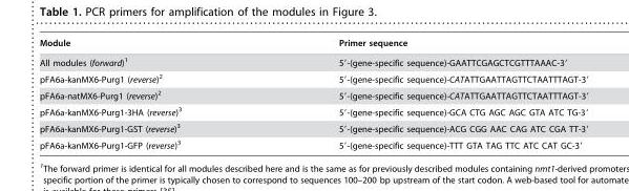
<table><thead><tr><td>Module</td><td>Primer sequence</td></tr></thead><tbody><tr><td>All modules (forward)<sup>1</sup></td><td>5′-(gene-specific sequence)-GAATTCGAGCTCGTTTAAAC-3′</td></tr><tr><td>pFA6a-kanMX6-Purg1 (reverse)<sup>2</sup></td><td>5′-(gene-specific sequence)-CATATTGAATTAGTTCTAATTTAGT-3′</td></tr><tr><td>pFA6a-natMX6-Purg1 (reverse)<sup>2</sup></td><td>5′-(gene-specific sequence)-CATATTGAATTAGTTCTAATTTAGT-3′</td></tr><tr><td>pFA6a-kanMX6-Purg1-3HA (reverse)<sup>3</sup></td><td>5′-(gene-specific sequence)-GCA CTG AGC AGC GTA ATC TG-3′</td></tr><tr><td>pFA6a-kanMX6-Purg1-GST (reverse)<sup>3</sup></td><td>5′-(gene-specific sequence)-ACG CGG AAC CAG ATC CGA TT-3′</td></tr><tr><td>pFA6a-kanMX6-Purg1-GFP (reverse)<sup>3</sup></td><td>5′-(gene-specific sequence)-TTT GTA TAG TTC ATC CAT GC-3′</td></tr></tbody></table>